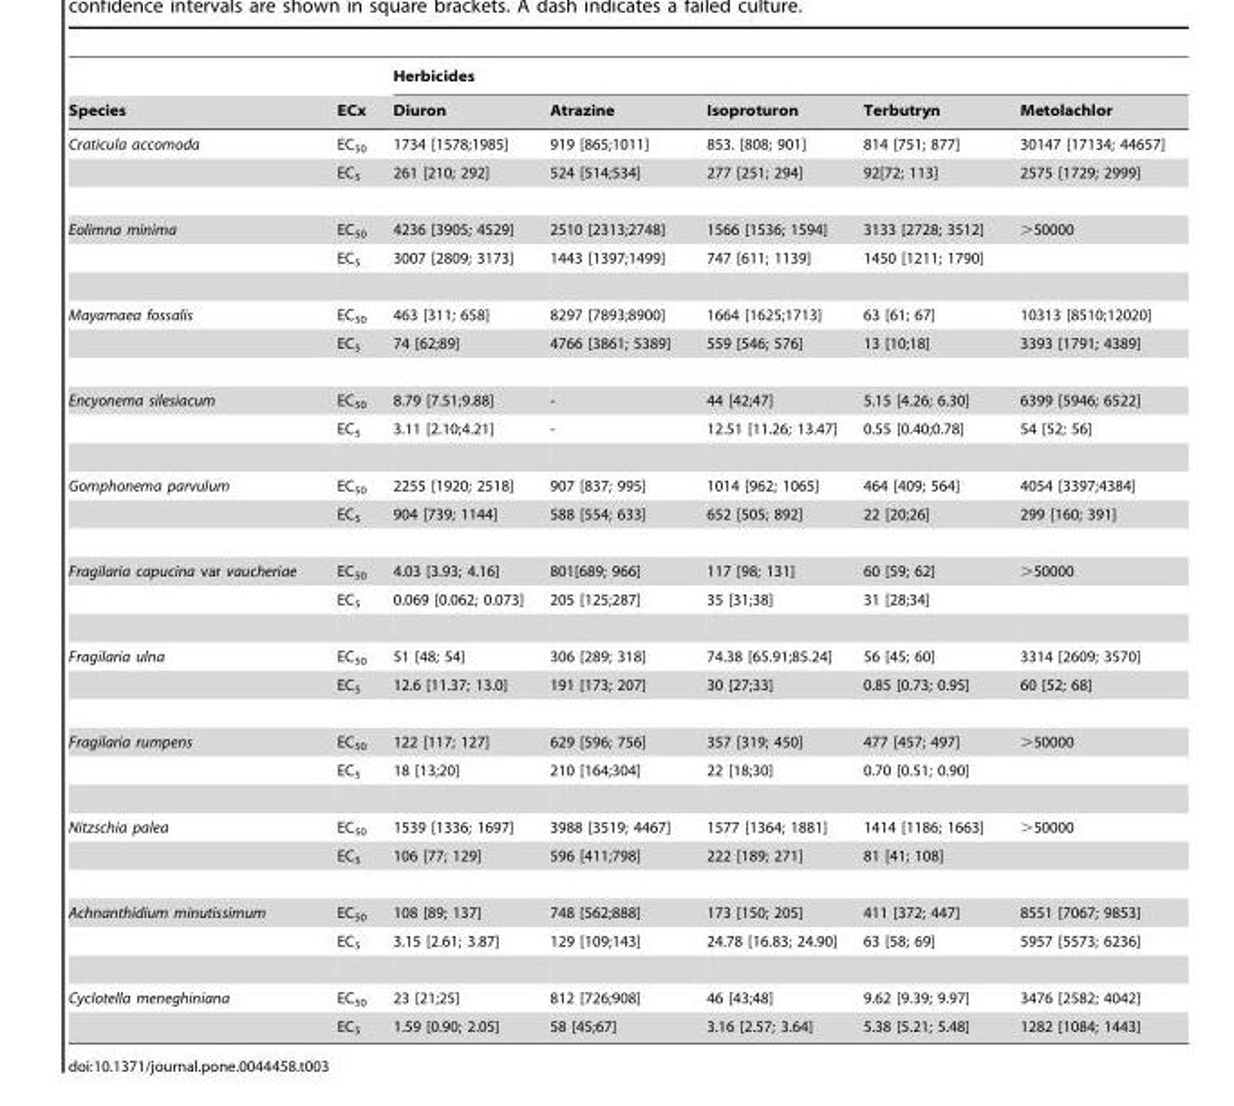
<table><thead><tr><td rowspan="2">Species</td><td rowspan="2">ECx</td><td colspan="5">Herbicides</td></tr><tr><td>Diuron</td><td>Atrazine</td><td>Isoproturon</td><td>Terbutryn</td><td>Metolachlor</td></tr></thead><tbody><tr><td rowspan="2">Craticula accomoda</td><td>EC<sub>50</sub></td><td>1734 [1578;1985]</td><td>919 [865;1011]</td><td>853. [808; 901]</td><td>814 [751; 877]</td><td>30147 [17134; 44657]</td></tr><tr><td>EC<sub>5</sub></td><td>261 [210; 292]</td><td>524 [514;534]</td><td>277 [251; 294]</td><td>92[72; 113]</td><td>2575 [1729; 2999]</td></tr><tr><td rowspan="2">Eolimna minima</td><td>EC<sub>50</sub></td><td>4236 [3905; 4529]</td><td>2510 [2313;2748]</td><td>1566 [1536; 1594]</td><td>3133 [2728; 3512]</td><td>&gt;50000</td></tr><tr><td>EC<sub>5</sub></td><td>3007 [2809; 3173]</td><td>1443 [1397;1499]</td><td>747 [611; 1139]</td><td>1450 [1211; 1790]</td><td></td></tr><tr><td rowspan="2">Mayamaea fossalis</td><td>EC<sub>50</sub></td><td>463 [311; 658]</td><td>8297 [7893;8900]</td><td>1664 [1625;1713]</td><td>63 [61; 67]</td><td>10313 [8510;12020]</td></tr><tr><td>EC<sub>5</sub></td><td>74 [62;89]</td><td>4766 [3861; 5389]</td><td>559 [546; 576]</td><td>13 [10;18]</td><td>3393 [1791; 4389]</td></tr><tr><td rowspan="2">Encyonema silesiacum</td><td>EC<sub>50</sub></td><td>8.79 [7.51;9.88]</td><td>-</td><td>44 [42;47]</td><td>5.15 [4.26; 6.30]</td><td>6399 [5946; 6522]</td></tr><tr><td>EC<sub>5</sub></td><td>3.11 [2.10;4.21]</td><td>-</td><td>12.51 [11.26; 13.47]</td><td>0.55 [0.40;0.78]</td><td>54 [52; 56]</td></tr><tr><td rowspan="2">Gomphonema parvulum</td><td>EC<sub>50</sub></td><td>2255 [1920; 2518]</td><td>907 [837; 995]</td><td>1014 [962; 1065]</td><td>464 [409; 564]</td><td>4054 [3397;4384]</td></tr><tr><td>EC<sub>5</sub></td><td>904 [739; 1144]</td><td>588 [554; 633]</td><td>652 [505; 892]</td><td>22 [20;26]</td><td>299 [160; 391]</td></tr><tr><td rowspan="2">Fragilaria capucina var vaucheriae</td><td>EC<sub>50</sub></td><td>4.03 [3.93; 4.16]</td><td>801[689; 966]</td><td>117 [98; 131]</td><td>60 [59; 62]</td><td>&gt;50000</td></tr><tr><td>EC<sub>5</sub></td><td>0.069 [0.062; 0.073]</td><td>205 [125;287]</td><td>35 [31;38]</td><td>31 [28;34]</td><td></td></tr><tr><td rowspan="2">Fragilaria ulna</td><td>EC<sub>50</sub></td><td>51 [48; 54]</td><td>306 [289; 318]</td><td>74.38 [65.91;85.24]</td><td>56 [45; 60]</td><td>3314 [2609; 3570]</td></tr><tr><td>EC<sub>5</sub></td><td>12.6 [11.37; 13.0]</td><td>191 [173; 207]</td><td>30 [27;33]</td><td>0.85 [0.73; 0.95]</td><td>60 [52; 68]</td></tr><tr><td rowspan="2">Fragilaria rumpens</td><td>EC<sub>50</sub></td><td>122 [117; 127]</td><td>629 [596; 756]</td><td>357 [319; 450]</td><td>477 [457; 497]</td><td>&gt;50000</td></tr><tr><td>EC<sub>5</sub></td><td>18 [13;20]</td><td>210 [164;304]</td><td>22 [18;30]</td><td>0.70 [0.51; 0.90]</td><td></td></tr><tr><td rowspan="2">Nitzschia palea</td><td>EC<sub>50</sub></td><td>1539 [1336; 1697]</td><td>3988 [3519; 4467]</td><td>1577 [1364; 1881]</td><td>1414 [1186; 1663]</td><td>&gt;50000</td></tr><tr><td>EC<sub>5</sub></td><td>106 [77; 129]</td><td>596 [411;798]</td><td>222 [189; 271]</td><td>81 [41; 108]</td><td></td></tr><tr><td rowspan="2">Achnanthidium minutissimum</td><td>EC<sub>50</sub></td><td>108 [89; 137]</td><td>748 [562;888]</td><td>173 [150; 205]</td><td>411 [372; 447]</td><td>8551 [7067; 9853]</td></tr><tr><td>EC<sub>5</sub></td><td>3.15 [2.61; 3.87]</td><td>129 [109;143]</td><td>24.78 [16.83; 24.90]</td><td>63 [58; 69]</td><td>5957 [5573; 6236]</td></tr><tr><td rowspan="2">Cyclotella meneghiniana</td><td>EC<sub>50</sub></td><td>23 [21;25]</td><td>812 [726;908]</td><td>46 [43;48]</td><td>9.62 [9.39; 9.97]</td><td>3476 [2582; 4042]</td></tr><tr><td>EC<sub>5</sub></td><td>1.59 [0.90; 2.05]</td><td>58 [45;67]</td><td>3.16 [2.57; 3.64]</td><td>5.38 [5.21; 5.48]</td><td>1282 [1084; 1443]</td></tr></tbody></table>